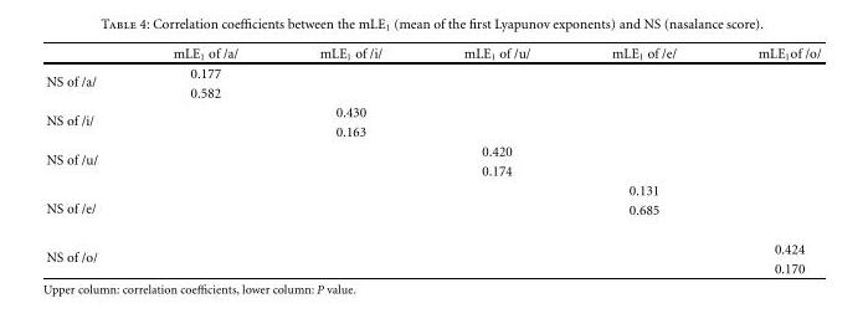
<table><thead><tr><td></td><td>mLE<sub>1</sub> of /a/</td><td>mLE<sub>1</sub> of /i/</td><td>mLE<sub>1</sub> of /u/</td><td>mLE<sub>1</sub> of /e/</td><td>mLE<sub>1</sub>of /o/</td></tr></thead><tbody><tr><td rowspan="2">NS of /a/</td><td>0.177</td><td></td><td></td><td></td><td></td></tr><tr><td>0.582</td><td></td><td></td><td></td><td></td></tr><tr><td rowspan="2">NS of /i/</td><td></td><td>0.430</td><td></td><td></td><td></td></tr><tr><td></td><td>0.163</td><td></td><td></td><td></td></tr><tr><td rowspan="2">NS of /u/</td><td></td><td></td><td>0.420</td><td></td><td></td></tr><tr><td></td><td></td><td>0.174</td><td></td><td></td></tr><tr><td rowspan="2">NS of /e/</td><td></td><td></td><td></td><td>0.131</td><td></td></tr><tr><td></td><td></td><td></td><td>0.685</td><td></td></tr><tr><td rowspan="2">NS of /o/</td><td></td><td></td><td></td><td></td><td>0.424</td></tr><tr><td></td><td></td><td></td><td></td><td>0.170</td></tr></tbody></table>